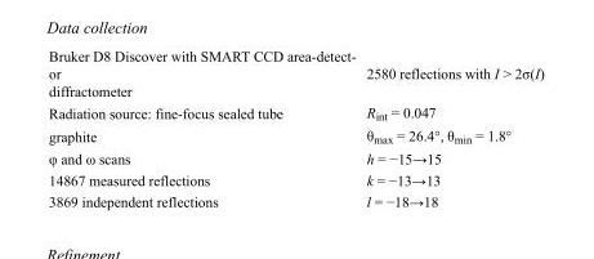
<table><tbody><tr><td>Bruker D8 Discover with SMART CCD area-detect- or diffractometer</td><td>2580 reflections with I &gt; 2σ(I)</td></tr><tr><td>Radiation source: fine-focus sealed tube</td><td>R<sub>int</sub> = 0.047</td></tr><tr><td>graphite</td><td>θ<sub>max</sub> = 26.4°, θ<sub>min</sub> = 1.8°</td></tr><tr><td>φ and ω scans</td><td>h = −15→15</td></tr><tr><td>14867 measured reflections</td><td>k = −13→13</td></tr><tr><td>3869 independent reflections</td><td>l = −18→18</td></tr></tbody></table>